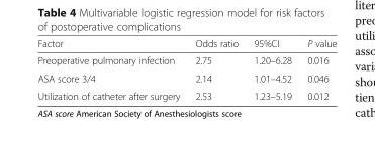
<table><thead><tr><td>Factor</td><td>Odds ratio</td><td>95%CI</td><td>P value</td></tr></thead><tbody><tr><td>Preoperative pulmonary infection</td><td>2.75</td><td>1.20–6.28</td><td>0.016</td></tr><tr><td>ASA score 3/4</td><td>2.14</td><td>1.01–4.52</td><td>0.046</td></tr><tr><td>Utilization of catheter after surgery</td><td>2.53</td><td>1.23–5.19</td><td>0.012</td></tr></tbody></table>